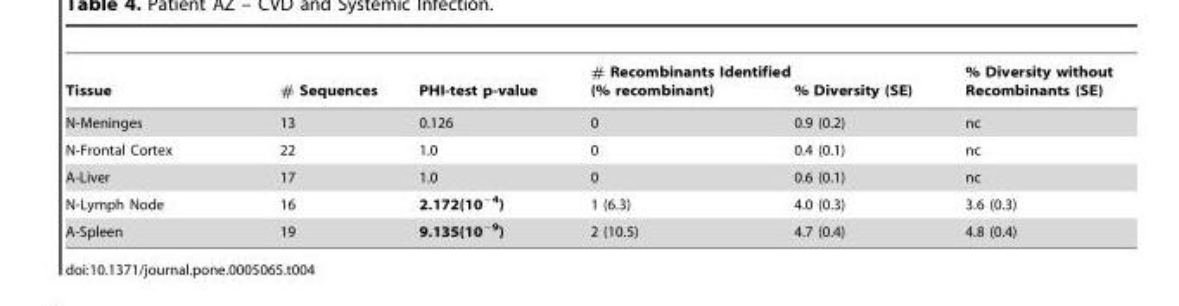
<table><thead><tr><td>Tissue</td><td># Sequences</td><td>PHI-test p-value</td><td># Recombinants Identified (% recombinant)</td><td>% Diversity (SE)</td><td>% Diversity without Recombinants (SE)</td></tr></thead><tbody><tr><td>N-Meninges</td><td>13</td><td>0.126</td><td>0</td><td>0.9 (0.2)</td><td>nc</td></tr><tr><td>N-Frontal Cortex</td><td>22</td><td>1.0</td><td>0</td><td>0.4 (0.1)</td><td>nc</td></tr><tr><td>A-Liver</td><td>17</td><td>1.0</td><td>0</td><td>0.6 (0.1)</td><td>nc</td></tr><tr><td>N-Lymph Node</td><td>16</td><td>2.172(10<sup>−4</sup>)</td><td>1 (6.3)</td><td>4.0 (0.3)</td><td>3.6 (0.3)</td></tr><tr><td>A-Spleen</td><td>19</td><td>9.135(10<sup>−9</sup>)</td><td>2 (10.5)</td><td>4.7 (0.4)</td><td>4.8 (0.4)</td></tr></tbody></table>